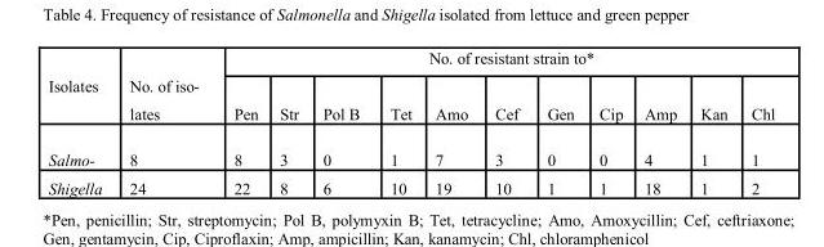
<table><thead><tr><td rowspan="2">Isolates</td><td rowspan="2">No. of iso- lates</td><td colspan="11">No. of resistant strain to*</td></tr><tr><td>Pen</td><td>Str</td><td>Pol B</td><td>Tet</td><td>Amo</td><td>Cef</td><td>Gen</td><td>Cip</td><td>Amp</td><td>Kan</td><td>Chl</td></tr></thead><tbody><tr><td>Salmo-</td><td>8</td><td>8</td><td>3</td><td>0</td><td>1</td><td>7</td><td>3</td><td>0</td><td>0</td><td>4</td><td>1</td><td>1</td></tr><tr><td>Shigella</td><td>24</td><td>22</td><td>8</td><td>6</td><td>10</td><td>19</td><td>10</td><td>1</td><td>1</td><td>18</td><td>1</td><td>2</td></tr></tbody></table>